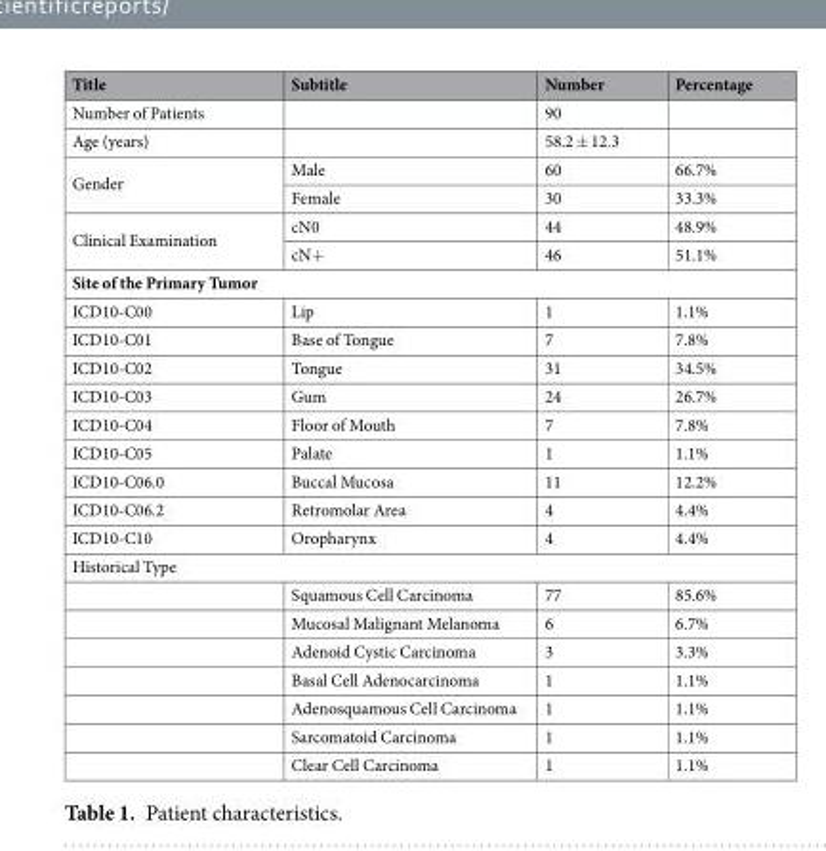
<table><thead><tr><td>Title</td><td>Subtitle</td><td>Number</td><td>Percentage</td></tr></thead><tbody><tr><td>Number of Patients</td><td></td><td>90</td><td></td></tr><tr><td>Age (years)</td><td></td><td>58.2 ± 12.3</td><td></td></tr><tr><td rowspan="2">Gender</td><td>Male</td><td>60</td><td>66.7%</td></tr><tr><td>Female</td><td>30</td><td>33.3%</td></tr><tr><td rowspan="2">Clinical Examination</td><td>cN0</td><td>44</td><td>48.9%</td></tr><tr><td>cN+</td><td>46</td><td>51.1%</td></tr><tr><td colspan="4">Site of the Primary Tumor</td></tr><tr><td>ICD10-C00</td><td>Lip</td><td>1</td><td>1.1%</td></tr><tr><td>ICD10-C01</td><td>Base of Tongue</td><td>7</td><td>7.8%</td></tr><tr><td>ICD10-C02</td><td>Tongue</td><td>31</td><td>34.5%</td></tr><tr><td>ICD10-C03</td><td>Gum</td><td>24</td><td>26.7%</td></tr><tr><td>ICD10-C04</td><td>Floor of Mouth</td><td>7</td><td>7.8%</td></tr><tr><td>ICD10-C05</td><td>Palate</td><td>1</td><td>1.1%</td></tr><tr><td>ICD10-C06.0</td><td>Buccal Mucosa</td><td>11</td><td>12.2%</td></tr><tr><td>ICD10-C06.2</td><td>Retromolar Area</td><td>4</td><td>4.4%</td></tr><tr><td>ICD10-C10</td><td>Oropharynx</td><td>4</td><td>4.4%</td></tr><tr><td colspan="4">Historical Type</td></tr><tr><td></td><td>Squamous Cell Carcinoma</td><td>77</td><td>85.6%</td></tr><tr><td></td><td>Mucosal Malignant Melanoma</td><td>6</td><td>6.7%</td></tr><tr><td></td><td>Adenoid Cystic Carcinoma</td><td>3</td><td>3.3%</td></tr><tr><td></td><td>Basal Cell Adenocarcinoma</td><td>1</td><td>1.1%</td></tr><tr><td></td><td>Adenosquamous Cell Carcinoma</td><td>1</td><td>1.1%</td></tr><tr><td></td><td>Sarcomatoid Carcinoma</td><td>1</td><td>1.1%</td></tr><tr><td></td><td>Clear Cell Carcinoma</td><td>1</td><td>1.1%</td></tr></tbody></table>